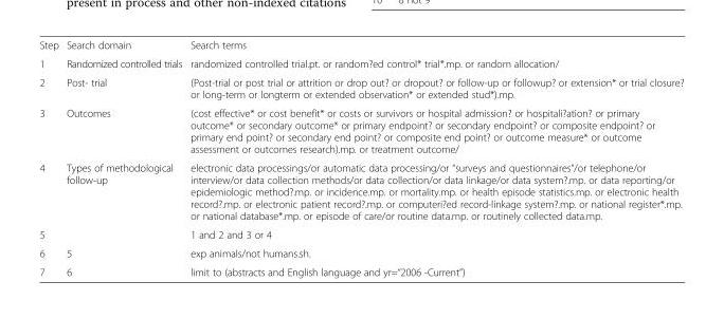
<table><tbody><tr><td>Step</td><td>Search domain</td><td>Search terms</td></tr><tr><td>1</td><td>Randomized controlled trials</td><td>randomized controlled trial.pt. or random?ed control* trial*.mp. or random allocation/</td></tr><tr><td>2</td><td>Post- trial</td><td>(Post-trial or post trial or attrition or drop out? or dropout? or follow-up or followup? or extension* or trial closure? or long-term or longterm or extended observation* or extended stud*).mp.</td></tr><tr><td>3</td><td>Outcomes</td><td>(cost effective* or cost benefit* or costs or survivors or hospital admission? or hospitali?ation? or primary outcome* or secondary outcome* or primary endpoint? or secondary endpoint? or composite endpoint? or primary end point? or secondary end point? or composite end point? or outcome measure* or outcome assessment or outcomes research).mp. or treatment outcome/</td></tr><tr><td>4</td><td>Types of methodological follow-up</td><td>electronic data processings/or automatic data processing/or “surveys and questionnaires”/or telephone/or interview/or data collection methods/or data collection/or data linkage/or data system?.mp. or data reporting/or epidemiologic method?.mp. or incidence.mp. or mortality.mp. or health episode statistics.mp. or electronic health record?.mp. or electronic patient record?.mp. or computeri?ed record-linkage system?.mp. or national register*.mp. or national database*.mp. or episode of care/or routine data.mp. or routinely collected data.mp.</td></tr><tr><td>5</td><td></td><td>1 and 2 and 3 or 4</td></tr><tr><td>6</td><td>5</td><td>exp animals/not humans.sh.</td></tr><tr><td>7</td><td>6</td><td>limit to (abstracts and English language and yr=“2006 -Current”)</td></tr></tbody></table>